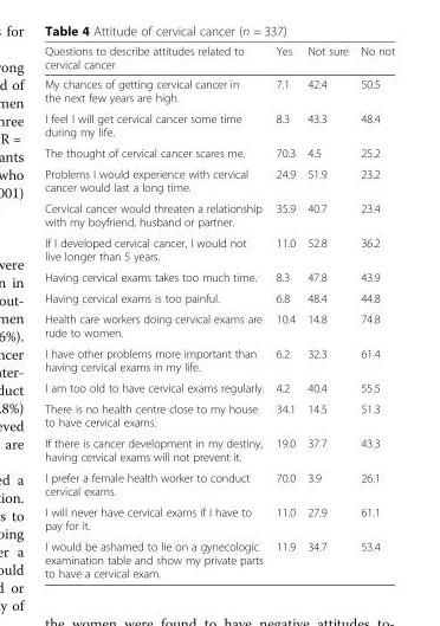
<table><thead><tr><td>Questions to describe attitudes related to cervical cancer</td><td>Yes</td><td>Not sure</td><td>No not</td></tr></thead><tbody><tr><td>My chances of getting cervical cancer in the next few years are high.</td><td>7.1</td><td>42.4</td><td>50.5</td></tr><tr><td>I feel I will get cervical cancer some time during my life.</td><td>8.3</td><td>43.3</td><td>48.4</td></tr><tr><td>The thought of cervical cancer scares me.</td><td>70.3</td><td>4.5</td><td>25.2</td></tr><tr><td>Problems I would experience with cervical cancer would last a long time.</td><td>24.9</td><td>51.9</td><td>23.2</td></tr><tr><td>Cervical cancer would threaten a relationship with my boyfriend, husband or partner.</td><td>35.9</td><td>40.7</td><td>23.4</td></tr><tr><td>If I developed cervical cancer, I would not live longer than 5 years.</td><td>11.0</td><td>52.8</td><td>36.2</td></tr><tr><td>Having cervical exams takes too much time.</td><td>8.3</td><td>47.8</td><td>43.9</td></tr><tr><td>Having cervical exams is too painful.</td><td>6.8</td><td>48.4</td><td>44.8</td></tr><tr><td>Health care workers doing cervical exams are rude to women.</td><td>10.4</td><td>14.8</td><td>74.8</td></tr><tr><td>I have other problems more important than having cervical exams in my life.</td><td>6.2</td><td>32.3</td><td>61.4</td></tr><tr><td>I am too old to have cervical exams regularly.</td><td>4.2</td><td>40.4</td><td>55.5</td></tr><tr><td>There is no health centre close to my house to have cervical exams.</td><td>34.1</td><td>14.5</td><td>51.3</td></tr><tr><td>If there is cancer development in my destiny, having cervical exams will not prevent it.</td><td>19.0</td><td>37.7</td><td>43.3</td></tr><tr><td>I prefer a female health worker to conduct cervical exams.</td><td>70.0</td><td>3.9</td><td>26.1</td></tr><tr><td>I will never have cervical exams if I have to pay for it.</td><td>11.0</td><td>27.9</td><td>61.1</td></tr><tr><td>I would be ashamed to lie on a gynecologic examination table and show my private parts to have a cervical exam.</td><td>11.9</td><td>34.7</td><td>53.4</td></tr></tbody></table>